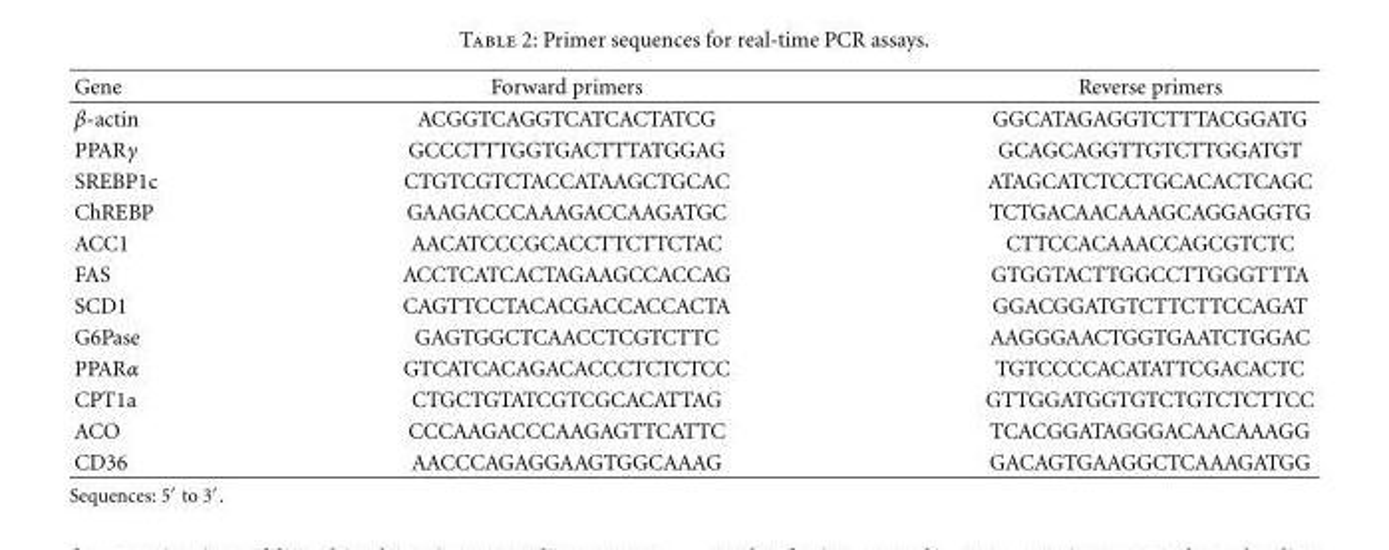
<table><thead><tr><td>Gene</td><td>Forward primers</td><td>Reverse primers</td></tr></thead><tbody><tr><td>β-actin</td><td>ACGGTCAGGTCATCACTATCG</td><td>GGCATAGAGGTCTTTACGGATG</td></tr><tr><td>PPARγ</td><td>GCCCTTTGGTGACTTTATGGAG</td><td>GCAGCAGGTTGTCTTGGATGT</td></tr><tr><td>SREBP1c</td><td>CTGTCGTCTACCATAAGCTGCAC</td><td>ATAGCATCTCCTGCACACTCAGC</td></tr><tr><td>ChREBP</td><td>GAAGACCCAAAGACCAAGATGC</td><td>TCTGACAACAAAGCAGGAGGTG</td></tr><tr><td>ACC1</td><td>AACATCCCGCACCTTCTTCTAC</td><td>CTTCCACAAACCAGCGTCTC</td></tr><tr><td>FAS</td><td>ACCTCATCACTAGAAGCCACCAG</td><td>GTGGTACTTGGCCTTGGGTTTA</td></tr><tr><td>SCD1</td><td>CAGTTCCTACACGACCACCACTA</td><td>GGACGGATGTCTTCTTCCAGAT</td></tr><tr><td>G6Pase</td><td>GAGTGGCTCAACCTCGTCTTC</td><td>AAGGGAACTGGTGAATCTGGAC</td></tr><tr><td>PPARα</td><td>GTCATCACAGACACCCTCTCTCC</td><td>TGTCCCCACATATTCGACACTC</td></tr><tr><td>CPT1a</td><td>CTGCTGTATCGTCGCACATTAG</td><td>GTTGGATGGTGTCTGTCTCTTCC</td></tr><tr><td>ACO</td><td>CCCAAGACCCAAGAGTTCATTC</td><td>TCACGGATAGGGACAACAAAGG</td></tr><tr><td>CD36</td><td>AACCCAGAGGAAGTGGCAAAG</td><td>GACAGTGAAGGCTCAAAGATGG</td></tr></tbody></table>